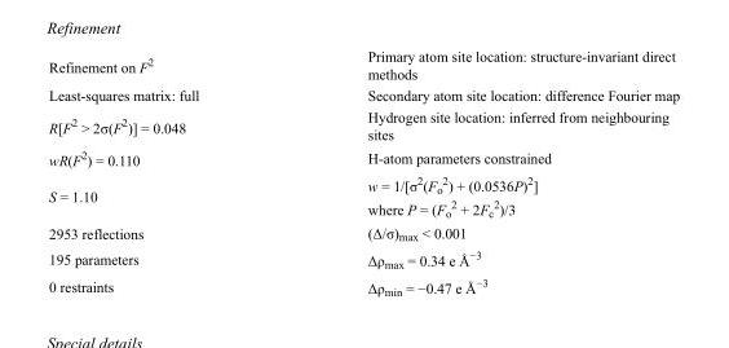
<table><tbody><tr><td>Refinement on F<sup>2</sup></td><td>Primary atom site location: structure-invariant direct methods</td></tr><tr><td>Least-squares matrix: full</td><td>Secondary atom site location: difference Fourier map</td></tr><tr><td>R[F<sup>2</sup> &gt; 2σ(F<sup>2</sup>)] = 0.048</td><td>Hydrogen site location: inferred from neighbouring sites</td></tr><tr><td>wR(F<sup>2</sup>) = 0.110</td><td>H-atom parameters constrained</td></tr><tr><td>S = 1.10</td><td>w = 1/[σ<sup>2</sup>(F<sub>o</sub> <sup>2</sup>) + (0.0536P)<sup>2</sup>] where P = (F<sub>o</sub> <sup>2</sup> + 2F<sub>c</sub> <sup>2</sup>)/3</td></tr><tr><td>2953 reflections</td><td>(Δ/σ)<sub>max</sub> &lt; 0.001</td></tr><tr><td>195 parameters</td><td>Δρ<sub>max</sub> = 0.34 e Å<sup>−3</sup></td></tr><tr><td>0 restraints</td><td>Δρ<sub>min</sub> = −0.47 e Å<sup>−3</sup></td></tr></tbody></table>